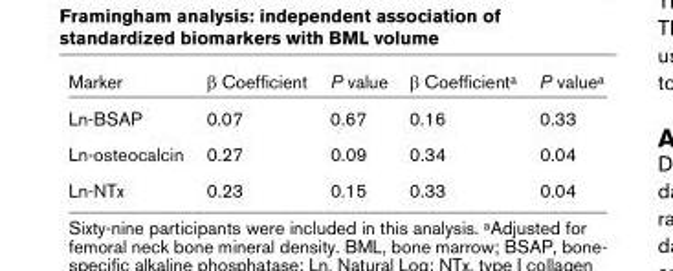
<table><thead><tr><td>Marker</td><td>β Coefficient</td><td>P value</td><td>β Coefficient<sup>a</sup></td><td>P value<sup>a</sup></td></tr></thead><tbody><tr><td>Ln-BSAP</td><td>0.07</td><td>0.67</td><td>0.16</td><td>0.33</td></tr><tr><td>Ln-osteocalcin</td><td>0.27</td><td>0.09</td><td>0.34</td><td>0.04</td></tr><tr><td>Ln-NTx</td><td>0.23</td><td>0.15</td><td>0.33</td><td>0.04</td></tr></tbody></table>